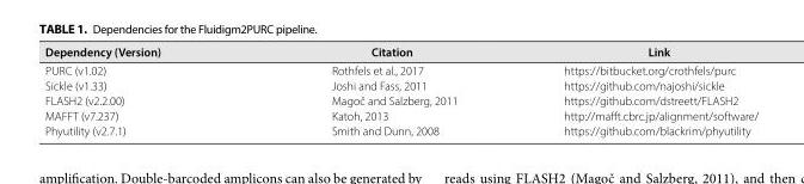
<table><thead><tr><td>Dependency (Version)</td><td>Citation</td><td>Link</td></tr></thead><tbody><tr><td>PURC (v1.02)</td><td>Rothfels et al., 2017</td><td>https://bitbucket.org/crothfels/purc</td></tr><tr><td>Sickle (v1.33)</td><td>Joshi and Fass, 2011</td><td>https://github.com/najoshi/sickle</td></tr><tr><td>FLASH2 (v2.2.00)</td><td>Magoč and Salzberg, 2011</td><td>https://github.com/dstreett/FLASH2</td></tr><tr><td>MAFFT (v7.237)</td><td>Katoh, 2013</td><td>http://mafft.cbrc.jp/alignment/software/</td></tr><tr><td>Phyutility (v2.7.1)</td><td>Smith and Dunn, 2008</td><td>https://github.com/blackrim/phyutility</td></tr></tbody></table>